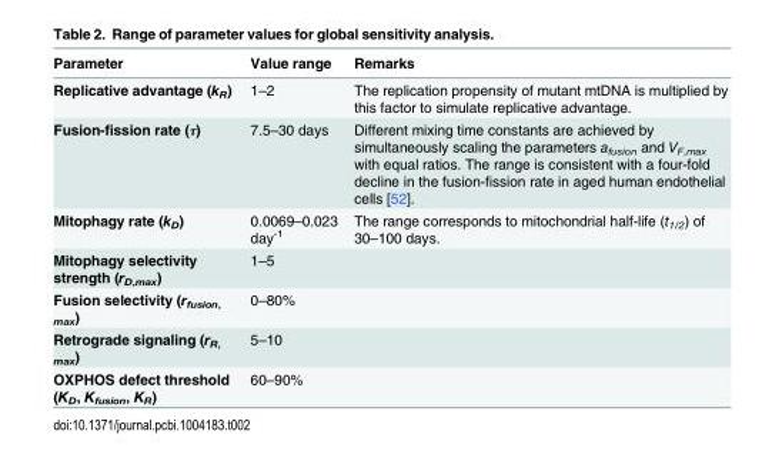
<table><thead><tr><td>Parameter</td><td>Value range</td><td>Remarks</td></tr></thead><tbody><tr><td>Replicative advantage (k<sub>R</sub>)</td><td>1–2</td><td>The replication propensity of mutant mtDNA is multiplied by this factor to simulate replicative advantage.</td></tr><tr><td>Fusion-fission rate (τ)</td><td>7.5–30 days</td><td>Different mixing time constants are achieved by simultaneously scaling the parameters a<sub>fusion</sub> and V<sub>F,max</sub> with equal ratios. The range is consistent with a four-fold decline in the fusion-fission rate in aged human endothelial cells [52].</td></tr><tr><td>Mitophagy rate (k<sub>D</sub>)</td><td>0.0069–0.023 day<sup>-1</sup></td><td>The range corresponds to mitochondrial half-life (t<sub>1/2</sub>) of 30–100 days.</td></tr><tr><td>Mitophagy selectivity strength (r<sub>D,max</sub>)</td><td>1–5</td><td></td></tr><tr><td>Fusion selectivity (r<sub>fusion, max</sub>)</td><td>0–80%</td><td></td></tr><tr><td>Retrograde signaling (r<sub>R, max</sub>)</td><td>5–10</td><td></td></tr><tr><td>OXPHOS defect threshold (K<sub>D</sub>, K<sub>fusion</sub>, K<sub>R</sub>)</td><td>60–90%</td><td></td></tr></tbody></table>